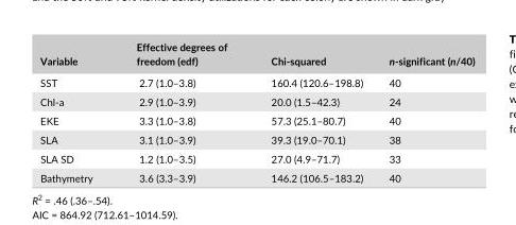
<table><thead><tr><td>Variable</td><td>Effective degrees of freedom (edf)</td><td>Chi- squared</td><td>n- significant (n/40)</td></tr></thead><tbody><tr><td>SST</td><td>2.7 (1.0–3.8)</td><td>160.4 (120.6–198.8)</td><td>40</td></tr><tr><td>Chl- a</td><td>2.9 (1.0–3.9)</td><td>20.0 (1.5–42.3)</td><td>24</td></tr><tr><td>EKE</td><td>3.3 (1.0–3.8)</td><td>57.3 (25.1–80.7)</td><td>40</td></tr><tr><td>SLA</td><td>3.1 (1.0–3.9)</td><td>39.3 (19.0–70.1)</td><td>38</td></tr><tr><td>SLA SD</td><td>1.2 (1.0–3.5)</td><td>27.0 (4.9–71.7)</td><td>33</td></tr><tr><td>Bathymetry</td><td>3.6 (3.3–3.9)</td><td>146.2 (106.5–183.2)</td><td>40</td></tr></tbody></table>